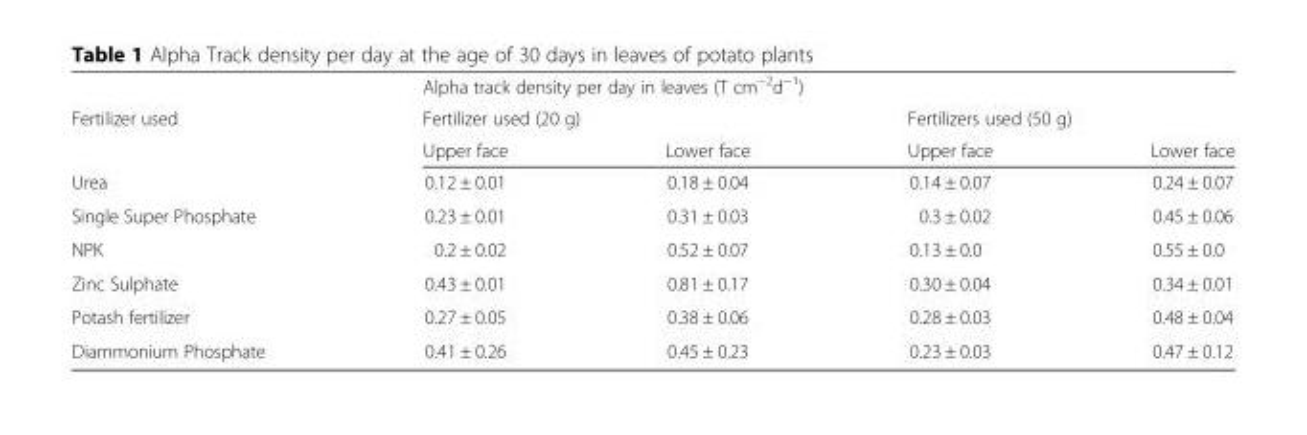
<table><thead><tr><td rowspan="3">Fertilizer used</td><td colspan="4">Alpha track density per day in leaves (T cm<sup>−2</sup>d<sup>−1</sup>)</td></tr><tr><td colspan="2">Fertilizer used (20 g)</td><td colspan="2">Fertilizers used (50 g)</td></tr><tr><td>Upper face</td><td>Lower face</td><td>Upper face</td><td>Lower face</td></tr></thead><tbody><tr><td>Urea</td><td>0.12 ± 0.01</td><td>0.18 ± 0.04</td><td>0.14 ± 0.07</td><td>0.24 ± 0.07</td></tr><tr><td>Single Super Phosphate</td><td>0.23 ± 0.01</td><td>0.31 ± 0.03</td><td>0.3 ± 0.02</td><td>0.45 ± 0.06</td></tr><tr><td>NPK</td><td>0.2 ± 0.02</td><td>0.52 ± 0.07</td><td>0.13 ± 0.0</td><td>0.55 ± 0.0</td></tr><tr><td>Zinc Sulphate</td><td>0.43 ± 0.01</td><td>0.81 ± 0.17</td><td>0.30 ± 0.04</td><td>0.34 ± 0.01</td></tr><tr><td>Potash fertilizer</td><td>0.27 ± 0.05</td><td>0.38 ± 0.06</td><td>0.28 ± 0.03</td><td>0.48 ± 0.04</td></tr><tr><td>Diammonium Phosphate</td><td>0.41 ± 0.26</td><td>0.45 ± 0.23</td><td>0.23 ± 0.03</td><td>0.47 ± 0.12</td></tr></tbody></table>